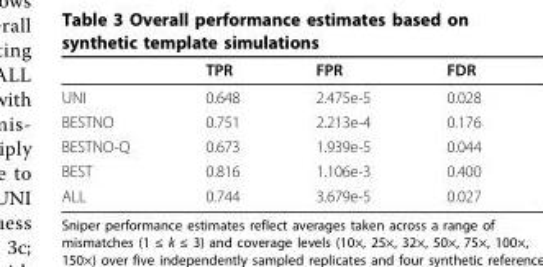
<table><thead><tr><td></td><td>TPR</td><td>FPR</td><td>FDR</td></tr></thead><tbody><tr><td>UNI</td><td>0.648</td><td>2.475e-5</td><td>0.028</td></tr><tr><td>BESTNO</td><td>0.751</td><td>2.213e-4</td><td>0.176</td></tr><tr><td>BESTNO-Q</td><td>0.673</td><td>1.939e-5</td><td>0.044</td></tr><tr><td>BEST</td><td>0.816</td><td>1.106e-3</td><td>0.400</td></tr><tr><td>ALL</td><td>0.744</td><td>3.679e-5</td><td>0.027</td></tr></tbody></table>